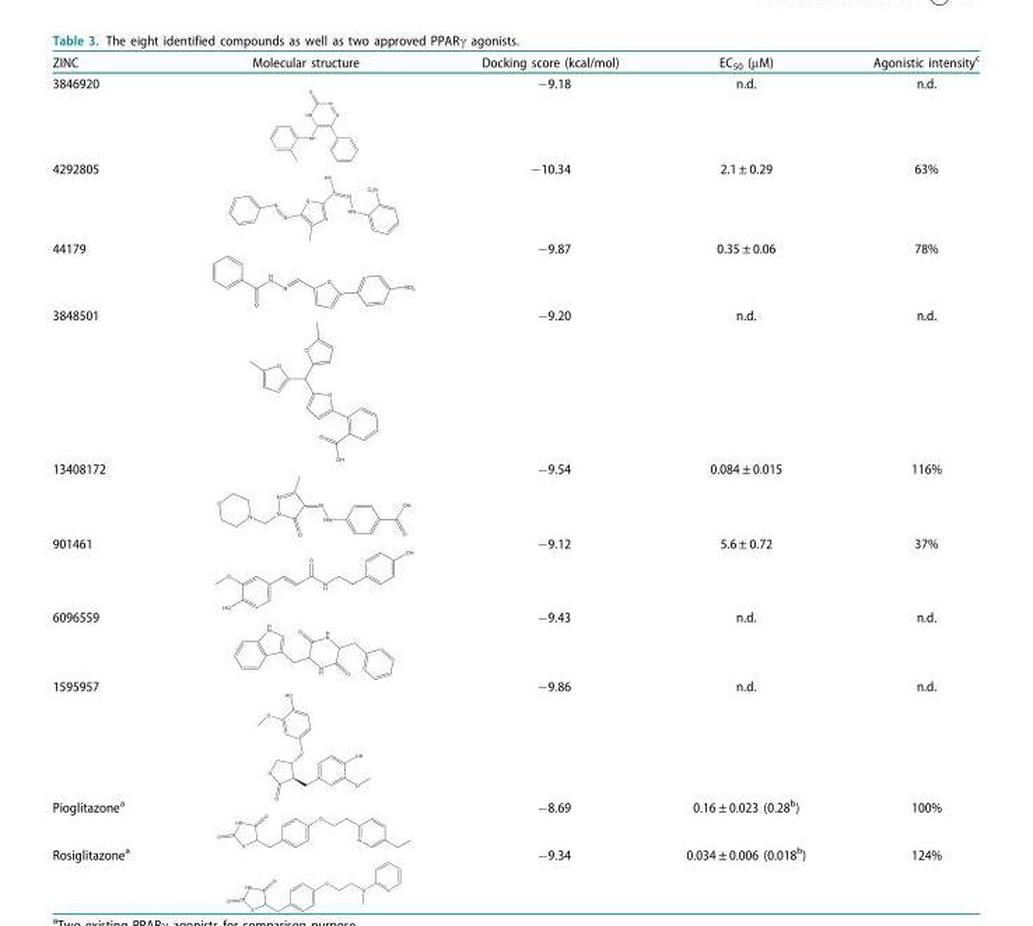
<table><thead><tr><td>ZINC</td><td>Molecular structure</td><td>Docking score (kcal/mol)</td><td>EC<sub>50</sub> (μM)</td><td>Agonistic intensity<sup>c</sup></td></tr></thead><tbody><tr><td>3846920</td><td></td><td>−9.18</td><td>n.d.</td><td>n.d.</td></tr><tr><td>4292805</td><td></td><td>−10.34</td><td>2.1 ± 0.29</td><td>63%</td></tr><tr><td>44179</td><td></td><td>−9.87</td><td>0.35 ± 0.06</td><td>78%</td></tr><tr><td>3848501</td><td></td><td>−9.20</td><td>n.d.</td><td>n.d.</td></tr><tr><td>13408172</td><td></td><td>−9.54</td><td>0.084 ± 0.015</td><td>116%</td></tr><tr><td>901461</td><td></td><td>−9.12</td><td>5.6 ± 0.72</td><td>37%</td></tr><tr><td>6096559</td><td></td><td>−9.43</td><td>n.d.</td><td>n.d.</td></tr><tr><td>1595957</td><td></td><td>−9.86</td><td>n.d.</td><td>n.d.</td></tr><tr><td>Pioglitazone<sup>a</sup></td><td></td><td>−8.69</td><td>0.16 ± 0.023 (0.28<sup>b</sup>)</td><td>100%</td></tr><tr><td>Rosiglitazone<sup>a</sup></td><td></td><td>−9.34</td><td>0.034 ± 0.006 (0.018<sup>b</sup>)</td><td>124%</td></tr></tbody></table>